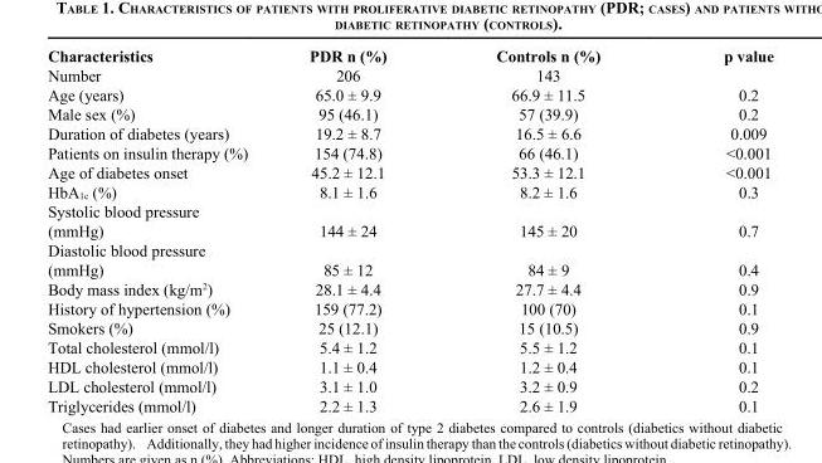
<table><thead><tr><td>Characteristics</td><td>PDR n (%)</td><td>Controls n (%)</td><td>p value</td></tr></thead><tbody><tr><td>Number</td><td>206</td><td>143</td><td></td></tr><tr><td>Age (years)</td><td>65.0 ± 9.9</td><td>66.9 ± 11.5</td><td>0.2</td></tr><tr><td>Male sex (%)</td><td>95 (46.1)</td><td>57 (39.9)</td><td>0.2</td></tr><tr><td>Duration of diabetes (years)</td><td>19.2 ± 8.7</td><td>16.5 ± 6.6</td><td>0.009</td></tr><tr><td>Patients on insulin therapy (%)</td><td>154 (74.8)</td><td>66 (46.1)</td><td>&lt;0.001</td></tr><tr><td>Age of diabetes onset</td><td>45.2 ± 12.1</td><td>53.3 ± 12.1</td><td>&lt;0.001</td></tr><tr><td>HbA<sub>1c</sub> (%)</td><td>8.1 ± 1.6</td><td>8.2 ± 1.6</td><td>0.3</td></tr><tr><td>Systolic blood pressure (mmHg)</td><td>144 ± 24</td><td>145 ± 20</td><td>0.7</td></tr><tr><td>Diastolic blood pressure (mmHg)</td><td>85 ± 12</td><td>84 ± 9</td><td>0.4</td></tr><tr><td>Body mass index (kg/m<sup>2</sup>)</td><td>28.1 ± 4.4</td><td>27.7 ± 4.4</td><td>0.9</td></tr><tr><td>History of hypertension (%)</td><td>159 (77.2)</td><td>100 (70)</td><td>0.1</td></tr><tr><td>Smokers (%)</td><td>25 (12.1)</td><td>15 (10.5)</td><td>0.9</td></tr><tr><td>Total cholesterol (mmol/l)</td><td>5.4 ± 1.2</td><td>5.5 ± 1.2</td><td>0.1</td></tr><tr><td>HDL cholesterol (mmol/l)</td><td>1.1 ± 0.4</td><td>1.2 ± 0.4</td><td>0.1</td></tr><tr><td>LDL cholesterol (mmol/l)</td><td>3.1 ± 1.0</td><td>3.2 ± 0.9</td><td>0.2</td></tr><tr><td>Triglycerides (mmol/l)</td><td>2.2 ± 1.3</td><td>2.6 ± 1.9</td><td>0.1</td></tr></tbody></table>